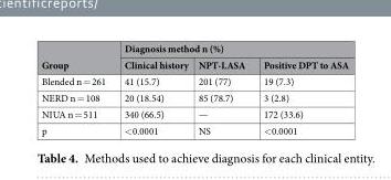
<table><thead><tr><td rowspan="2">Group</td><td colspan="3">Diagnosis method n (%)</td></tr><tr><td>Clinical history</td><td>NPT-LASA</td><td>Positive DPT to ASA</td></tr></thead><tbody><tr><td>Blended n = 261</td><td>41 (15.7)</td><td>201 (77)</td><td>19 (7.3)</td></tr><tr><td>NERD n = 108</td><td>20 (18.54)</td><td>85 (78.7)</td><td>3 (2.8)</td></tr><tr><td>NIUA n = 511</td><td>340 (66.5)</td><td>—</td><td>172 (33.6)</td></tr><tr><td>p</td><td>&lt;0.0001</td><td>NS</td><td>&lt;0.0001</td></tr></tbody></table>